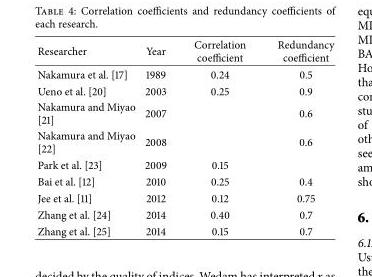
<table><thead><tr><td>Researcher</td><td>Year</td><td>Correlation coefficient</td><td>Redundancy coefficient</td></tr></thead><tbody><tr><td>Nakamura et al. [17]</td><td>1989</td><td>0.24</td><td>0.5</td></tr><tr><td>Ueno et al. [20]</td><td>2003</td><td>0.25</td><td>0.9</td></tr><tr><td>Nakamura and Miyao [21]</td><td>2007</td><td></td><td>0.6</td></tr><tr><td>Nakamura and Miyao [22]</td><td>2008</td><td></td><td>0.6</td></tr><tr><td>Park et al. [23]</td><td>2009</td><td>0.15</td><td></td></tr><tr><td>Bai et al. [12]</td><td>2010</td><td>0.25</td><td>0.4</td></tr><tr><td>Jee et al. [11]</td><td>2012</td><td>0.12</td><td>0.75</td></tr><tr><td>Zhang et al. [24]</td><td>2014</td><td>0.40</td><td>0.7</td></tr><tr><td>Zhang et al. [25]</td><td>2014</td><td>0.15</td><td>0.7</td></tr></tbody></table>